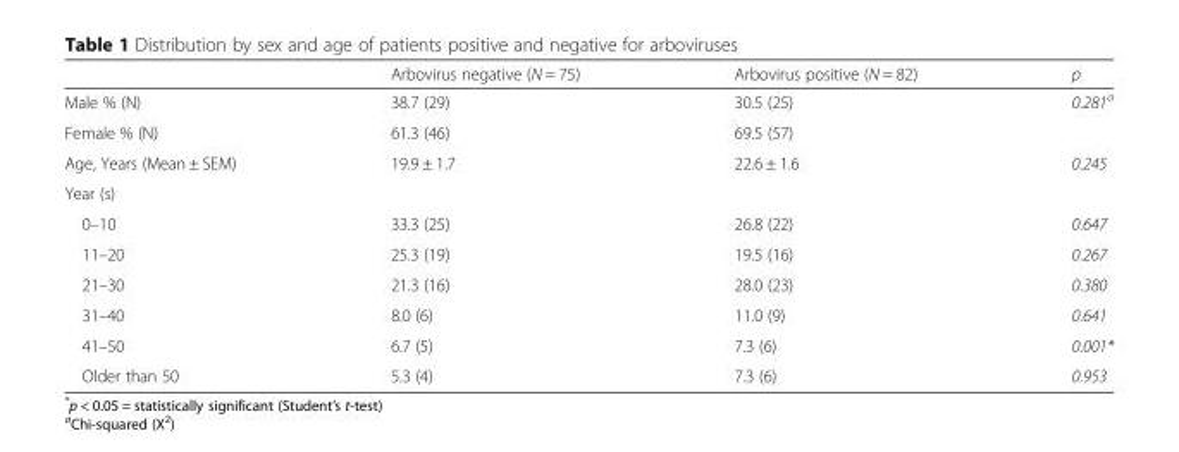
<table><thead><tr><td></td><td>Arbovirus negative (N = 75)</td><td>Arbovirus positive (N = 82)</td><td>p</td></tr></thead><tbody><tr><td>Male % (N)</td><td>38.7 (29)</td><td>30.5 (25)</td><td rowspan="2">0.281<sup>a</sup></td></tr><tr><td>Female % (N)</td><td>61.3 (46)</td><td>69.5 (57)</td></tr><tr><td>Age, Years (Mean ± SEM)</td><td>19.9 ± 1.7</td><td>22.6 ± 1.6</td><td>0.245</td></tr><tr><td colspan="4">Year (s)</td></tr><tr><td>0–10</td><td>33.3 (25)</td><td>26.8 (22)</td><td>0.647</td></tr><tr><td>11–20</td><td>25.3 (19)</td><td>19.5 (16)</td><td>0.267</td></tr><tr><td>21–30</td><td>21.3 (16)</td><td>28.0 (23)</td><td>0.380</td></tr><tr><td>31–40</td><td>8.0 (6)</td><td>11.0 (9)</td><td>0.641</td></tr><tr><td>41–50</td><td>6.7 (5)</td><td>7.3 (6)</td><td>0.001*</td></tr><tr><td>Older than 50</td><td>5.3 (4)</td><td>7.3 (6)</td><td>0.953</td></tr></tbody></table>